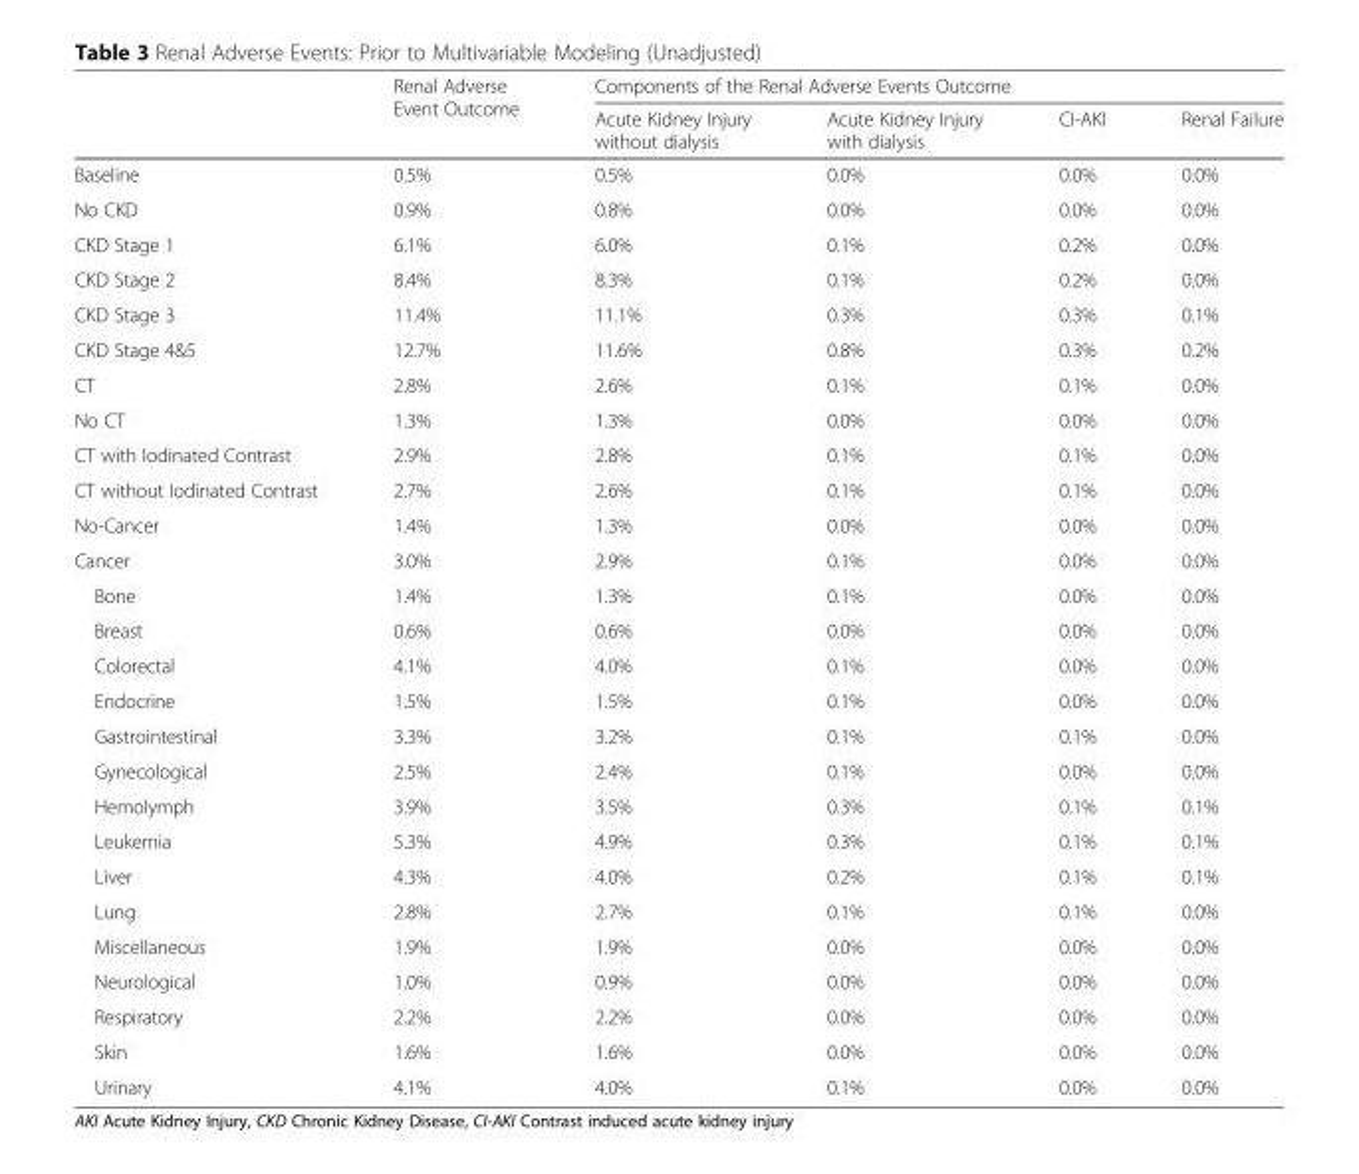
<table><thead><tr><td rowspan="2"></td><td rowspan="2">Renal Adverse Event Outcome</td><td colspan="4">Components of the Renal Adverse Events Outcome</td></tr><tr><td>Acute Kidney Injury without dialysis</td><td>Acute Kidney Injury with dialysis</td><td>CI-AKI</td><td>Renal Failure</td></tr></thead><tbody><tr><td>Baseline</td><td>0.5%</td><td>0.5%</td><td>0.0%</td><td>0.0%</td><td>0.0%</td></tr><tr><td>No CKD</td><td>0.9%</td><td>0.8%</td><td>0.0%</td><td>0.0%</td><td>0.0%</td></tr><tr><td>CKD Stage 1</td><td>6.1%</td><td>6.0%</td><td>0.1%</td><td>0.2%</td><td>0.0%</td></tr><tr><td>CKD Stage 2</td><td>8.4%</td><td>8.3%</td><td>0.1%</td><td>0.2%</td><td>0.0%</td></tr><tr><td>CKD Stage 3</td><td>11.4%</td><td>11.1%</td><td>0.3%</td><td>0.3%</td><td>0.1%</td></tr><tr><td>CKD Stage 4&amp;5</td><td>12.7%</td><td>11.6%</td><td>0.8%</td><td>0.3%</td><td>0.2%</td></tr><tr><td>CT</td><td>2.8%</td><td>2.6%</td><td>0.1%</td><td>0.1%</td><td>0.0%</td></tr><tr><td>No CT</td><td>1.3%</td><td>1.3%</td><td>0.0%</td><td>0.0%</td><td>0.0%</td></tr><tr><td>CT with Iodinated Contrast</td><td>2.9%</td><td>2.8%</td><td>0.1%</td><td>0.1%</td><td>0.0%</td></tr><tr><td>CT without Iodinated Contrast</td><td>2.7%</td><td>2.6%</td><td>0.1%</td><td>0.1%</td><td>0.0%</td></tr><tr><td>No-Cancer</td><td>1.4%</td><td>1.3%</td><td>0.0%</td><td>0.0%</td><td>0.0%</td></tr><tr><td>Cancer</td><td>3.0%</td><td>2.9%</td><td>0.1%</td><td>0.0%</td><td>0.0%</td></tr><tr><td>Bone</td><td>1.4%</td><td>1.3%</td><td>0.1%</td><td>0.0%</td><td>0.0%</td></tr><tr><td>Breast</td><td>0.6%</td><td>0.6%</td><td>0.0%</td><td>0.0%</td><td>0.0%</td></tr><tr><td>Colorectal</td><td>4.1%</td><td>4.0%</td><td>0.1%</td><td>0.0%</td><td>0.0%</td></tr><tr><td>Endocrine</td><td>1.5%</td><td>1.5%</td><td>0.1%</td><td>0.0%</td><td>0.0%</td></tr><tr><td>Gastrointestinal</td><td>3.3%</td><td>3.2%</td><td>0.1%</td><td>0.1%</td><td>0.0%</td></tr><tr><td>Gynecological</td><td>2.5%</td><td>2.4%</td><td>0.1%</td><td>0.0%</td><td>0.0%</td></tr><tr><td>Hemolymph</td><td>3.9%</td><td>3.5%</td><td>0.3%</td><td>0.1%</td><td>0.1%</td></tr><tr><td>Leukemia</td><td>5.3%</td><td>4.9%</td><td>0.3%</td><td>0.1%</td><td>0.1%</td></tr><tr><td>Liver</td><td>4.3%</td><td>4.0%</td><td>0.2%</td><td>0.1%</td><td>0.1%</td></tr><tr><td>Lung</td><td>2.8%</td><td>2.7%</td><td>0.1%</td><td>0.1%</td><td>0.0%</td></tr><tr><td>Miscellaneous</td><td>1.9%</td><td>1.9%</td><td>0.0%</td><td>0.0%</td><td>0.0%</td></tr><tr><td>Neurological</td><td>1.0%</td><td>0.9%</td><td>0.0%</td><td>0.0%</td><td>0.0%</td></tr><tr><td>Respiratory</td><td>2.2%</td><td>2.2%</td><td>0.0%</td><td>0.0%</td><td>0.0%</td></tr><tr><td>Skin</td><td>1.6%</td><td>1.6%</td><td>0.0%</td><td>0.0%</td><td>0.0%</td></tr><tr><td>Urinary</td><td>4.1%</td><td>4.0%</td><td>0.1%</td><td>0.0%</td><td>0.0%</td></tr></tbody></table>